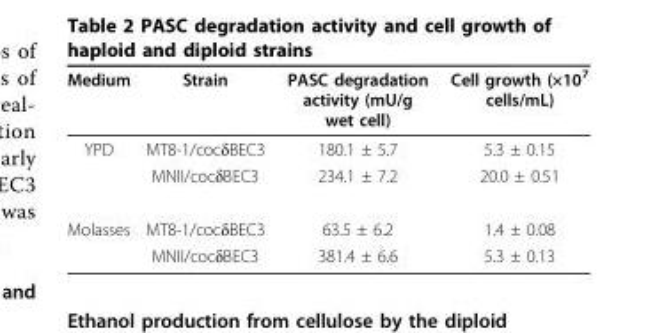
<table><thead><tr><td>Medium</td><td>Strain</td><td>PASC degradation activity (mU/g wet cell)</td><td>Cell growth (×10<sup>7</sup> cells/mL)</td></tr></thead><tbody><tr><td rowspan="2">YPD</td><td>MT8-1/cocδBEC3</td><td>180.1 ± 5.7</td><td>5.3 ± 0.15</td></tr><tr><td>MNII/cocδBEC3</td><td>234.1 ± 7.2</td><td>20.0 ± 0.51</td></tr><tr><td rowspan="2">Molasses</td><td>MT8-1/cocδBEC3</td><td>63.5 ± 6.2</td><td>1.4 ± 0.08</td></tr><tr><td>MNII/cocδBEC3</td><td>381.4 ± 6.6</td><td>5.3 ± 0.13</td></tr></tbody></table>